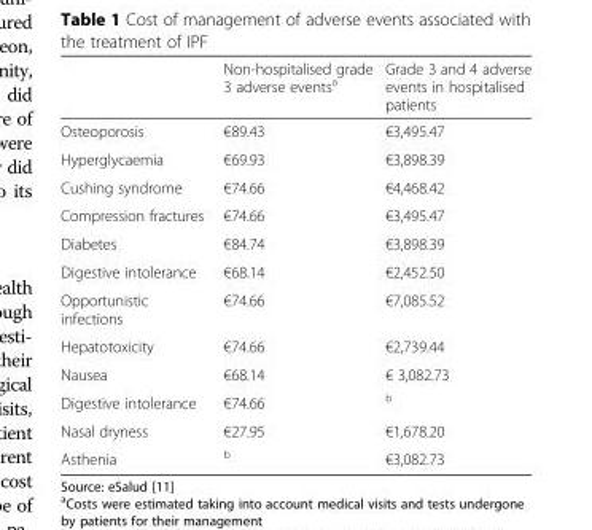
<table><thead><tr><td></td><td>Non-hospitalised grade 3 adverse events<sup>a</sup></td><td>Grade 3 and 4 adverse events in hospitalised patients</td></tr></thead><tbody><tr><td>Osteoporosis</td><td>€89.43</td><td>€3,495.47</td></tr><tr><td>Hyperglycaemia</td><td>€69.93</td><td>€3,898.39</td></tr><tr><td>Cushing syndrome</td><td>€74.66</td><td>€4,468.42</td></tr><tr><td>Compression fractures</td><td>€74.66</td><td>€3,495.47</td></tr><tr><td>Diabetes</td><td>€84.74</td><td>€3,898.39</td></tr><tr><td>Digestive intolerance</td><td>€68.14</td><td>€2,452.50</td></tr><tr><td>Opportunistic infections</td><td>€74.66</td><td>€7,085.52</td></tr><tr><td>Hepatotoxicity</td><td>€74.66</td><td>€2,739.44</td></tr><tr><td>Nausea</td><td>€68.14</td><td>€ 3,082.73</td></tr><tr><td>Digestive intolerance</td><td>€74.66</td><td><sup>b</sup></td></tr><tr><td>Nasal dryness</td><td>€27.95</td><td>€1,678.20</td></tr><tr><td>Asthenia</td><td><sup>b</sup></td><td>€3,082.73</td></tr></tbody></table>